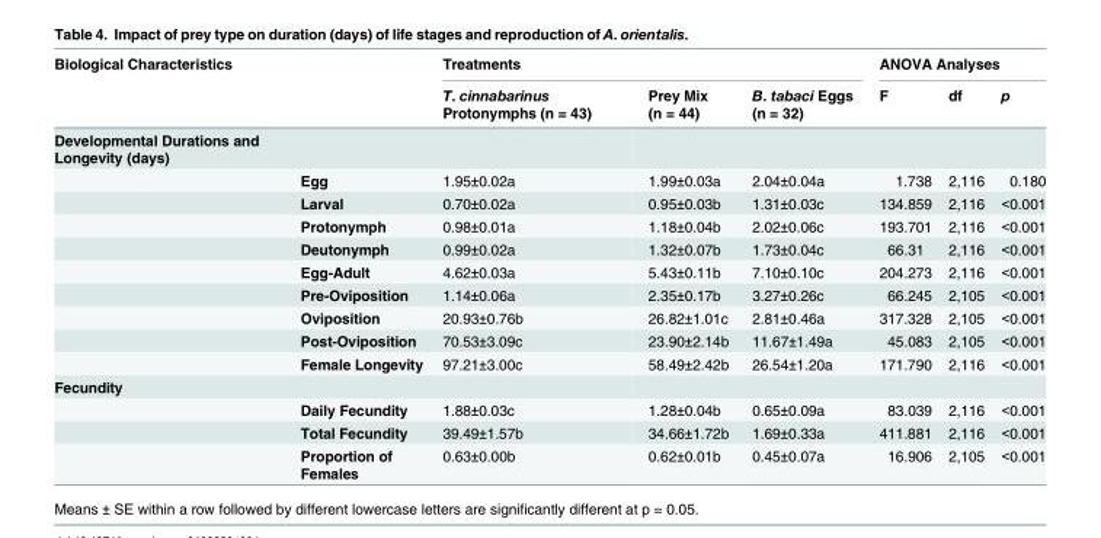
<table><thead><tr><td rowspan="2" colspan="2">Biological Characteristics</td><td colspan="3">Treatments</td><td colspan="3">ANOVA Analyses</td></tr><tr><td rowspan="2">T. cinnabarinus Protonymphs (n = 43)</td><td rowspan="2">Prey Mix (n = 44)</td><td rowspan="2">B. tabaci Eggs (n = 32)</td><td rowspan="2">F</td><td rowspan="2">df</td><td rowspan="2">p</td></tr><tr><td>Developmental Durations and Longevity (days)</td><td></td></tr></thead><tbody><tr><td></td><td>Egg</td><td>1.95±0.02a</td><td>1.99±0.03a</td><td>2.04±0.04a</td><td>1.738</td><td>2,116</td><td>0.180</td></tr><tr><td></td><td>Larval</td><td>0.70±0.02a</td><td>0.95±0.03b</td><td>1.31±0.03c</td><td>134.859</td><td>2,116</td><td>&lt;0.001</td></tr><tr><td></td><td>Protonymph</td><td>0.98±0.01a</td><td>1.18±0.04b</td><td>2.02±0.06c</td><td>193.701</td><td>2,116</td><td>&lt;0.001</td></tr><tr><td></td><td>Deutonymph</td><td>0.99±0.02a</td><td>1.32±0.07b</td><td>1.73±0.04c</td><td>66.31</td><td>2,116</td><td>&lt;0.001</td></tr><tr><td></td><td>Egg-Adult</td><td>4.62±0.03a</td><td>5.43±0.11b</td><td>7.10±0.10c</td><td>204.273</td><td>2,116</td><td>&lt;0.001</td></tr><tr><td></td><td>Pre-Oviposition</td><td>1.14±0.06a</td><td>2.35±0.17b</td><td>3.27±0.26c</td><td>66.245</td><td>2,105</td><td>&lt;0.001</td></tr><tr><td></td><td>Oviposition</td><td>20.93±0.76b</td><td>26.82±1.01c</td><td>2.81±0.46a</td><td>317.328</td><td>2,105</td><td>&lt;0.001</td></tr><tr><td></td><td>Post-Oviposition</td><td>70.53±3.09c</td><td>23.90±2.14b</td><td>11.67±1.49a</td><td>45.083</td><td>2,105</td><td>&lt;0.001</td></tr><tr><td></td><td>Female Longevity</td><td>97.21±3.00c</td><td>58.49±2.42b</td><td>26.54±1.20a</td><td>171.790</td><td>2,116</td><td>&lt;0.001</td></tr><tr><td colspan="8">Fecundity</td></tr><tr><td></td><td>Daily Fecundity</td><td>1.88±0.03c</td><td>1.28±0.04b</td><td>0.65±0.09a</td><td>83.039</td><td>2,116</td><td>&lt;0.001</td></tr><tr><td></td><td>Total Fecundity</td><td>39.49±1.57b</td><td>34.66±1.72b</td><td>1.69±0.33a</td><td>411.881</td><td>2,116</td><td>&lt;0.001</td></tr><tr><td></td><td>Proportion of Females</td><td>0.63±0.00b</td><td>0.62±0.01b</td><td>0.45±0.07a</td><td>16.906</td><td>2,105</td><td>&lt;0.001</td></tr></tbody></table>